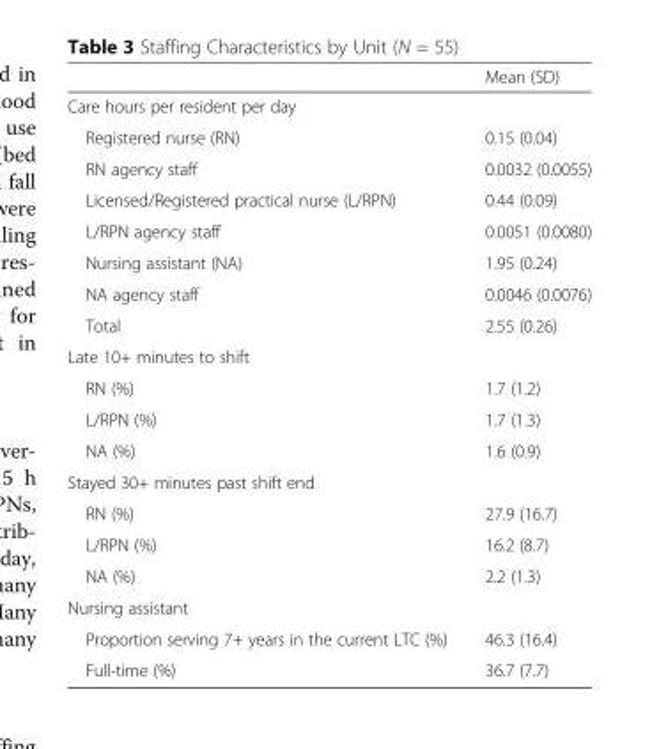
<table><thead><tr><td></td><td>Mean (SD)</td></tr></thead><tbody><tr><td colspan="2">Care hours per resident per day</td></tr><tr><td>Registered nurse (RN)</td><td>0.15 (0.04)</td></tr><tr><td>RN agency staff</td><td>0.0032 (0.0055)</td></tr><tr><td>Licensed/Registered practical nurse (L/RPN)</td><td>0.44 (0.09)</td></tr><tr><td>L/RPN agency staff</td><td>0.0051 (0.0080)</td></tr><tr><td>Nursing assistant (NA)</td><td>1.95 (0.24)</td></tr><tr><td>NA agency staff</td><td>0.0046 (0.0076)</td></tr><tr><td>Total</td><td>2.55 (0.26)</td></tr><tr><td colspan="2">Late 10+ minutes to shift</td></tr><tr><td>RN (%)</td><td>1.7 (1.2)</td></tr><tr><td>L/RPN (%)</td><td>1.7 (1.3)</td></tr><tr><td>NA (%)</td><td>1.6 (0.9)</td></tr><tr><td colspan="2">Stayed 30+ minutes past shift end</td></tr><tr><td>RN (%)</td><td>27.9 (16.7)</td></tr><tr><td>L/RPN (%)</td><td>16.2 (8.7)</td></tr><tr><td>NA (%)</td><td>2.2 (1.3)</td></tr><tr><td colspan="2">Nursing assistant</td></tr><tr><td>Proportion serving 7+ years in the current LTC (%)</td><td>46.3 (16.4)</td></tr><tr><td>Full-time (%)</td><td>36.7 (7.7)</td></tr></tbody></table>